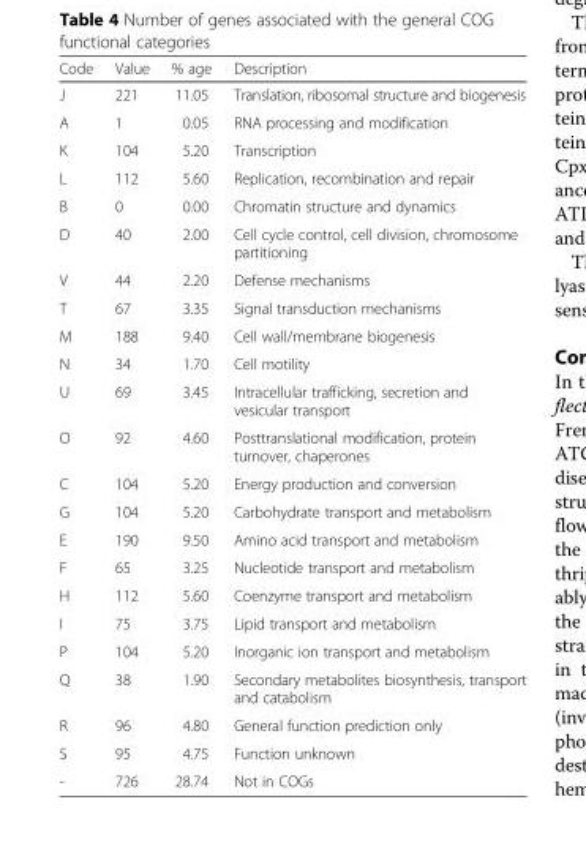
<table><thead><tr><td>Code</td><td>Value</td><td>% age</td><td>Description</td></tr></thead><tbody><tr><td>J</td><td>221</td><td>11.05</td><td>Translation, ribosomal structure and biogenesis</td></tr><tr><td>A</td><td>1</td><td>0.05</td><td>RNA processing and modification</td></tr><tr><td>K</td><td>104</td><td>5.20</td><td>Transcription</td></tr><tr><td>L</td><td>112</td><td>5.60</td><td>Replication, recombination and repair</td></tr><tr><td>B</td><td>0</td><td>0.00</td><td>Chromatin structure and dynamics</td></tr><tr><td>D</td><td>40</td><td>2.00</td><td>Cell cycle control, cell division, chromosome partitioning</td></tr><tr><td>V</td><td>44</td><td>2.20</td><td>Defense mechanisms</td></tr><tr><td>T</td><td>67</td><td>3.35</td><td>Signal transduction mechanisms</td></tr><tr><td>M</td><td>188</td><td>9.40</td><td>Cell wall/membrane biogenesis</td></tr><tr><td>N</td><td>34</td><td>1.70</td><td>Cell motility</td></tr><tr><td>U</td><td>69</td><td>3.45</td><td>Intracellular trafficking, secretion and vesicular transport</td></tr><tr><td>O</td><td>92</td><td>4.60</td><td>Posttranslational modification, protein turnover, chaperones</td></tr><tr><td>C</td><td>104</td><td>5.20</td><td>Energy production and conversion</td></tr><tr><td>G</td><td>104</td><td>5.20</td><td>Carbohydrate transport and metabolism</td></tr><tr><td>E</td><td>190</td><td>9.50</td><td>Amino acid transport and metabolism</td></tr><tr><td>F</td><td>65</td><td>3.25</td><td>Nucleotide transport and metabolism</td></tr><tr><td>H</td><td>112</td><td>5.60</td><td>Coenzyme transport and metabolism</td></tr><tr><td>I</td><td>75</td><td>3.75</td><td>Lipid transport and metabolism</td></tr><tr><td>P</td><td>104</td><td>5.20</td><td>Inorganic ion transport and metabolism</td></tr><tr><td>Q</td><td>38</td><td>1.90</td><td>Secondary metabolites biosynthesis, transport and catabolism</td></tr><tr><td>R</td><td>96</td><td>4.80</td><td>General function prediction only</td></tr><tr><td>S</td><td>95</td><td>4.75</td><td>Function unknown</td></tr><tr><td>-</td><td>726</td><td>28.74</td><td>Not in COGs</td></tr></tbody></table>